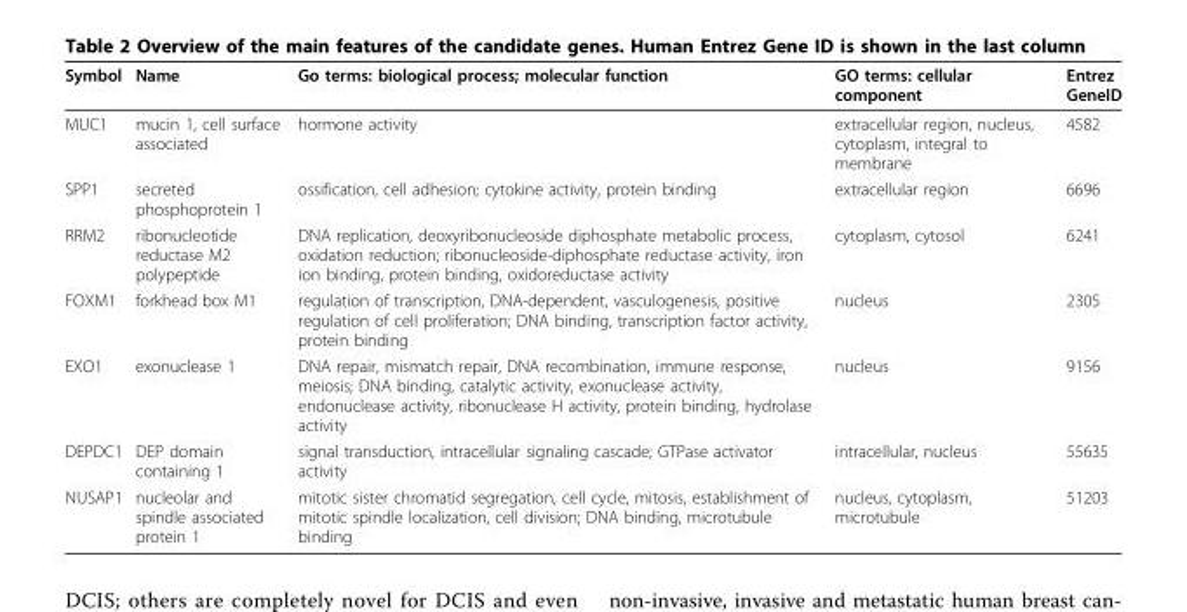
<table><thead><tr><td>Symbol</td><td>Name</td><td>Go terms: biological process; molecular function</td><td>GO terms: cellular component</td><td>Entrez GeneID</td></tr></thead><tbody><tr><td>MUC1</td><td>mucin 1, cell surface associated</td><td>hormone activity</td><td>extracellular region, nucleus, cytoplasm, integral to membrane</td><td>4582</td></tr><tr><td>SPP1</td><td>secreted phosphoprotein 1</td><td>ossification, cell adhesion; cytokine activity, protein binding</td><td>extracellular region</td><td>6696</td></tr><tr><td>RRM2</td><td>ribonucleotide reductase M2 polypeptide</td><td>DNA replication, deoxyribonucleoside diphosphate metabolic process, oxidation reduction; ribonucleoside-diphosphate reductase activity, iron ion binding, protein binding, oxidoreductase activity</td><td>cytoplasm, cytosol</td><td>6241</td></tr><tr><td>FOXM1</td><td>forkhead box M1</td><td>regulation of transcription, DNA-dependent, vasculogenesis, positive regulation of cell proliferation; DNA binding, transcription factor activity, protein binding</td><td>nucleus</td><td>2305</td></tr><tr><td>EXO1</td><td>exonuclease 1</td><td>DNA repair, mismatch repair, DNA recombination, immune response, meiosis; DNA binding, catalytic activity, exonuclease activity, endonuclease activity, ribonuclease H activity, protein binding, hydrolase activity</td><td>nucleus</td><td>9156</td></tr><tr><td>DEPDC1</td><td>DEP domain containing 1</td><td>signal transduction, intracellular signaling cascade; GTPase activator activity</td><td>intracellular, nucleus</td><td>55635</td></tr><tr><td>NUSAP1</td><td>nucleolar and spindle associated protein 1</td><td>mitotic sister chromatid segregation, cell cycle, mitosis, establishment of mitotic spindle localization, cell division; DNA binding, microtubule binding</td><td>nucleus, cytoplasm, microtubule</td><td>51203</td></tr></tbody></table>